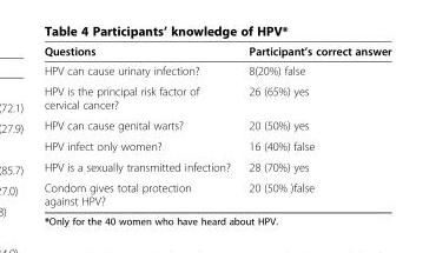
<table><thead><tr><td>Questions</td><td>Participant’s correct answer</td></tr></thead><tbody><tr><td>HPV can cause urinary infection?</td><td>8(20%) false</td></tr><tr><td>HPV is the principal risk factor of cervical cancer?</td><td>26 (65%) yes</td></tr><tr><td>HPV can cause genital warts?</td><td>20 (50%) yes</td></tr><tr><td>HPV infect only women?</td><td>16 (40%) false</td></tr><tr><td>HPV is a sexually transmitted infection?</td><td>28 (70%) yes</td></tr><tr><td>Condom gives total protection against HPV?</td><td>20 (50% )false</td></tr></tbody></table>